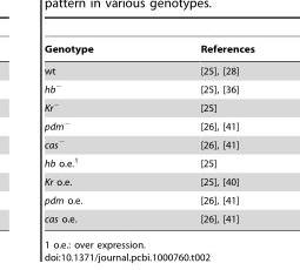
<table><thead><tr><td>Genotype</td><td>References</td></tr></thead><tbody><tr><td>wt</td><td>[25], [28]</td></tr><tr><td>hb<sup>−</sup></td><td>[25], [36]</td></tr><tr><td>Kr<sup>−</sup></td><td>[25]</td></tr><tr><td>pdm<sup>−</sup></td><td>[26], [41]</td></tr><tr><td>cas<sup>−</sup></td><td>[26], [41]</td></tr><tr><td>hb o.e.<sup>1</sup></td><td>[25]</td></tr><tr><td>Kr o.e.</td><td>[25], [40]</td></tr><tr><td>pdm o.e.</td><td>[26], [41]</td></tr><tr><td>cas o.e.</td><td>[26], [41]</td></tr></tbody></table>